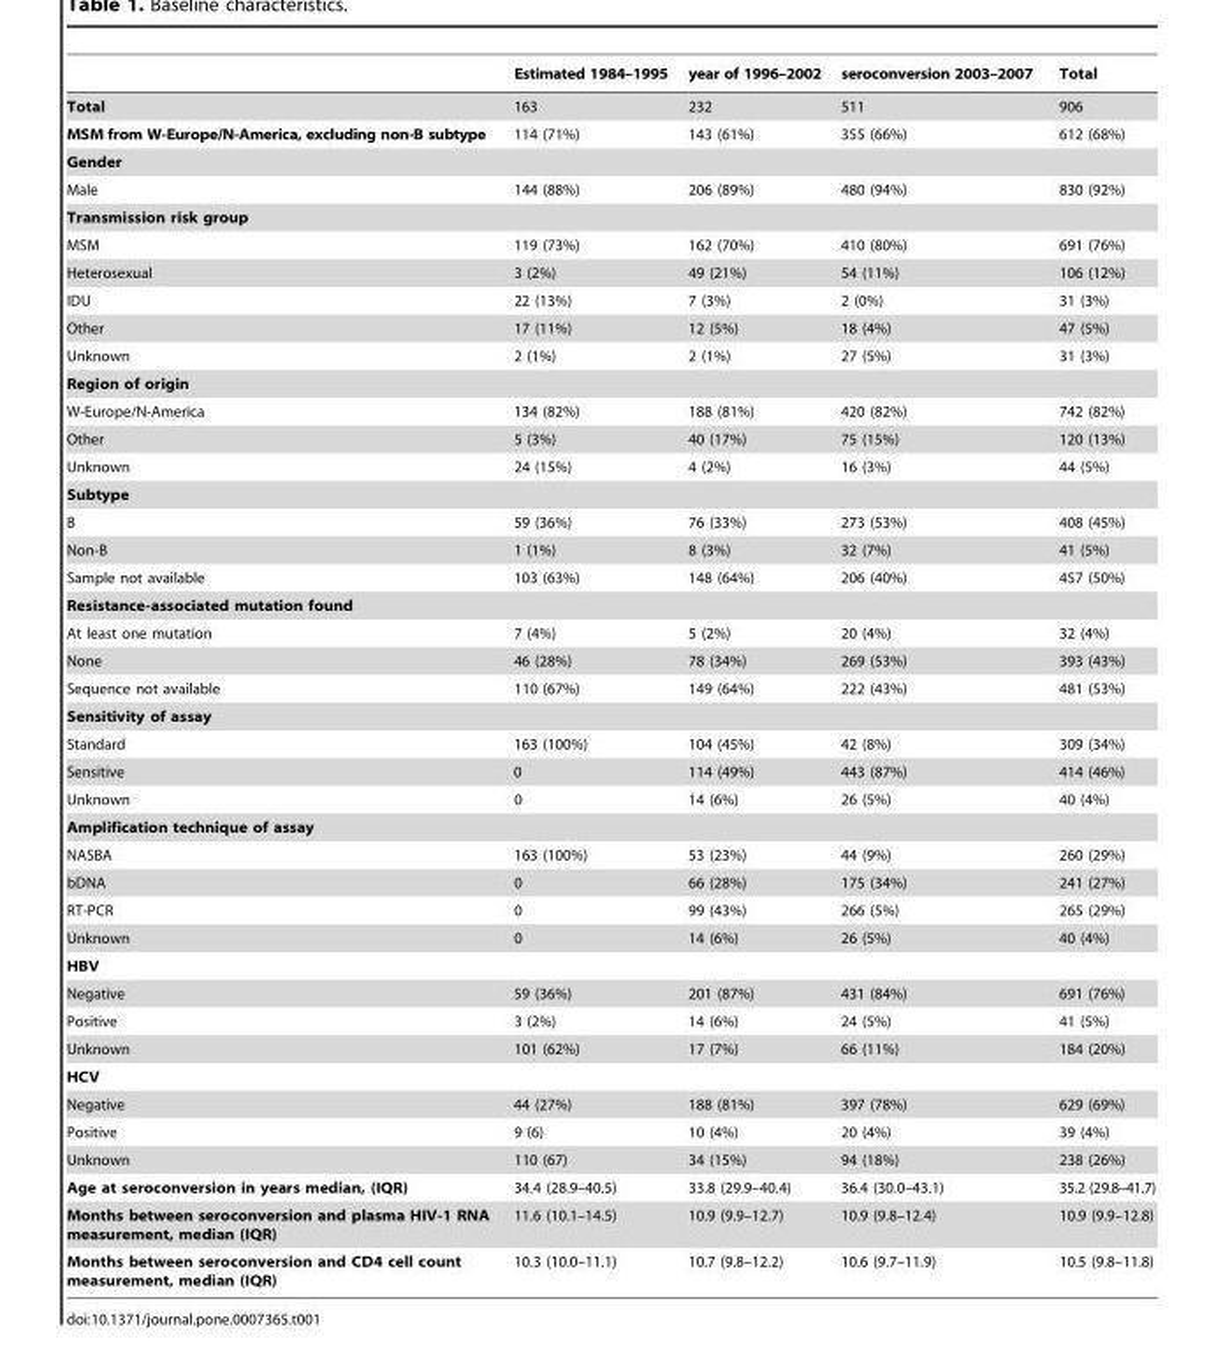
<table><thead><tr><td></td><td>Estimated 1984–1995</td><td>year of 1996–2002</td><td>seroconversion 2003–2007</td><td>Total</td></tr></thead><tbody><tr><td>Total</td><td>163</td><td>232</td><td>511</td><td>906</td></tr><tr><td>MSM from W-Europe/N-America, excluding non-B subtype</td><td>114 (71%)</td><td>143 (61%)</td><td>355 (66%)</td><td>612 (68%)</td></tr><tr><td colspan="5">Gender</td></tr><tr><td>Male</td><td>144 (88%)</td><td>206 (89%)</td><td>480 (94%)</td><td>830 (92%)</td></tr><tr><td colspan="5">Transmission risk group</td></tr><tr><td>MSM</td><td>119 (73%)</td><td>162 (70%)</td><td>410 (80%)</td><td>691 (76%)</td></tr><tr><td>Heterosexual</td><td>3 (2%)</td><td>49 (21%)</td><td>54 (11%)</td><td>106 (12%)</td></tr><tr><td>IDU</td><td>22 (13%)</td><td>7 (3%)</td><td>2 (0%)</td><td>31 (3%)</td></tr><tr><td>Other</td><td>17 (11%)</td><td>12 (5%)</td><td>18 (4%)</td><td>47 (5%)</td></tr><tr><td>Unknown</td><td>2 (1%)</td><td>2 (1%)</td><td>27 (5%)</td><td>31 (3%)</td></tr><tr><td colspan="5">Region of origin</td></tr><tr><td>W-Europe/N-America</td><td>134 (82%)</td><td>188 (81%)</td><td>420 (82%)</td><td>742 (82%)</td></tr><tr><td>Other</td><td>5 (3%)</td><td>40 (17%)</td><td>75 (15%)</td><td>120 (13%)</td></tr><tr><td>Unknown</td><td>24 (15%)</td><td>4 (2%)</td><td>16 (3%)</td><td>44 (5%)</td></tr><tr><td colspan="5">Subtype</td></tr><tr><td>B</td><td>59 (36%)</td><td>76 (33%)</td><td>273 (53%)</td><td>408 (45%)</td></tr><tr><td>Non-B</td><td>1 (1%)</td><td>8 (3%)</td><td>32 (7%)</td><td>41 (5%)</td></tr><tr><td>Sample not available</td><td>103 (63%)</td><td>148 (64%)</td><td>206 (40%)</td><td>457 (50%)</td></tr><tr><td colspan="5">Resistance-associated mutation found</td></tr><tr><td>At least one mutation</td><td>7 (4%)</td><td>5 (2%)</td><td>20 (4%)</td><td>32 (4%)</td></tr><tr><td>None</td><td>46 (28%)</td><td>78 (34%)</td><td>269 (53%)</td><td>393 (43%)</td></tr><tr><td>Sequence not available</td><td>110 (67%)</td><td>149 (64%)</td><td>222 (43%)</td><td>481 (53%)</td></tr><tr><td colspan="5">Sensitivity of assay</td></tr><tr><td>Standard</td><td>163 (100%)</td><td>104 (45%)</td><td>42 (8%)</td><td>309 (34%)</td></tr><tr><td>Sensitive</td><td>0</td><td>114 (49%)</td><td>443 (87%)</td><td>414 (46%)</td></tr><tr><td>Unknown</td><td>0</td><td>14 (6%)</td><td>26 (5%)</td><td>40 (4%)</td></tr><tr><td colspan="5">Amplification technique of assay</td></tr><tr><td>NASBA</td><td>163 (100%)</td><td>53 (23%)</td><td>44 (9%)</td><td>260 (29%)</td></tr><tr><td>bDNA</td><td>0</td><td>66 (28%)</td><td>175 (34%)</td><td>241 (27%)</td></tr><tr><td>RT-PCR</td><td>0</td><td>99 (43%)</td><td>266 (5%)</td><td>265 (29%)</td></tr><tr><td>Unknown</td><td>0</td><td>14 (6%)</td><td>26 (5%)</td><td>40 (4%)</td></tr><tr><td colspan="5">HBV</td></tr><tr><td>Negative</td><td>59 (36%)</td><td>201 (87%)</td><td>431 (84%)</td><td>691 (76%)</td></tr><tr><td>Positive</td><td>3 (2%)</td><td>14 (6%)</td><td>24 (5%)</td><td>41 (5%)</td></tr><tr><td>Unknown</td><td>101 (62%)</td><td>17 (7%)</td><td>66 (11%)</td><td>184 (20%)</td></tr><tr><td colspan="5">HCV</td></tr><tr><td>Negative</td><td>44 (27%)</td><td>188 (81%)</td><td>397 (78%)</td><td>629 (69%)</td></tr><tr><td>Positive</td><td>9 (6)</td><td>10 (4%)</td><td>20 (4%)</td><td>39 (4%)</td></tr><tr><td>Unknown</td><td>110 (67)</td><td>34 (15%)</td><td>94 (18%)</td><td>238 (26%)</td></tr><tr><td>Age at seroconversion in years median, (IQR)</td><td>34.4 (28.9–40.5)</td><td>33.8 (29.9–40.4)</td><td>36.4 (30.0–43.1)</td><td>35.2 (29.8–41.7)</td></tr><tr><td>Months between seroconversion and plasma HIV-1 RNA measurement, median (IQR)</td><td>11.6 (10.1–14.5)</td><td>10.9 (9.9–12.7)</td><td>10.9 (9.8–12.4)</td><td>10.9 (9.9–12.8)</td></tr><tr><td>Months between seroconversion and CD4 cell count measurement, median (IQR)</td><td>10.3 (10.0–11.1)</td><td>10.7 (9.8–12.2)</td><td>10.6 (9.7–11.9)</td><td>10.5 (9.8–11.8)</td></tr></tbody></table>